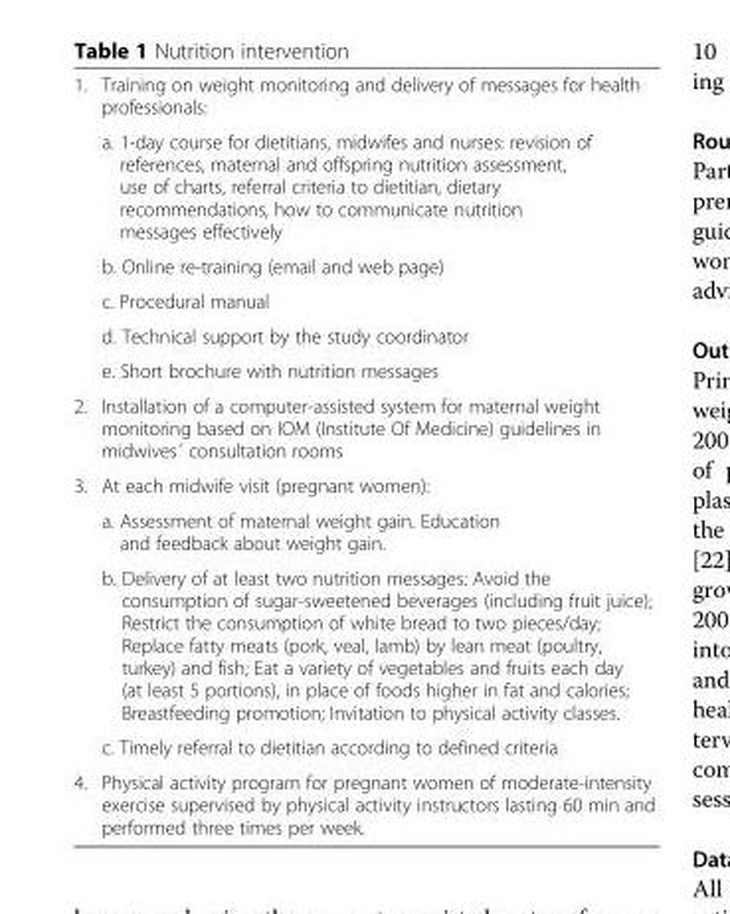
<table><tbody><tr><td rowspan="6">1.</td><td>Training on weight monitoring and delivery of messages for health professionals:</td></tr><tr><td>a. 1-day course for dietitians, midwifes and nurses: revision of references, maternal and offspring nutrition assessment, use of charts, referral criteria to dietitian, dietary recommendations, how to communicate nutrition messages effectively</td></tr><tr><td>b. Online re-training (email and web page)</td></tr><tr><td>c. Procedural manual</td></tr><tr><td>d. Technical support by the study coordinator</td></tr><tr><td>e. Short brochure with nutrition messages</td></tr><tr><td>2.</td><td>Installation of a computer-assisted system for maternal weight monitoring based on IOM (Institute Of Medicine) guidelines in midwives´ consultation rooms</td></tr><tr><td rowspan="4">3.</td><td>At each midwife visit (pregnant women):</td></tr><tr><td>a. Assessment of maternal weight gain. Education and feedback about weight gain.</td></tr><tr><td>b. Delivery of at least two nutrition messages: Avoid the consumption of sugar-sweetened beverages (including fruit juice); Restrict the consumption of white bread to two pieces/day; Replace fatty meats (pork, veal, lamb) by lean meat (poultry, turkey) and fish; Eat a variety of vegetables and fruits each day (at least 5 portions), in place of foods higher in fat and calories; Breastfeeding promotion; Invitation to physical activity classes.</td></tr><tr><td>c. Timely referral to dietitian according to defined criteria</td></tr><tr><td>4.</td><td>Physical activity program for pregnant women of moderate-intensity exercise supervised by physical activity instructors lasting 60 min and performed three times per week.</td></tr></tbody></table>